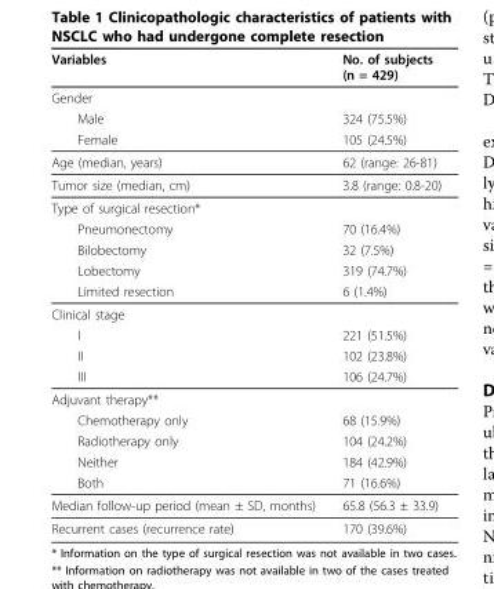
<table><thead><tr><td>Variables</td><td>No. of subjects (n = 429)</td></tr></thead><tbody><tr><td colspan="2">Gender</td></tr><tr><td>Male</td><td>324 (75.5%)</td></tr><tr><td>Female</td><td>105 (24.5%)</td></tr><tr><td>Age (median, years)</td><td>62 (range: 26-81)</td></tr><tr><td>Tumor size (median, cm)</td><td>3.8 (range: 0.8-20)</td></tr><tr><td colspan="2">Type of surgical resection*</td></tr><tr><td>Pneumonectomy</td><td>70 (16.4%)</td></tr><tr><td>Bilobectomy</td><td>32 (7.5%)</td></tr><tr><td>Lobectomy</td><td>319 (74.7%)</td></tr><tr><td>Limited resection</td><td>6 (1.4%)</td></tr><tr><td colspan="2">Clinical stage</td></tr><tr><td>I</td><td>221 (51.5%)</td></tr><tr><td>II</td><td>102 (23.8%)</td></tr><tr><td>III</td><td>106 (24.7%)</td></tr><tr><td colspan="2">Adjuvant therapy**</td></tr><tr><td>Chemotherapy only</td><td>68 (15.9%)</td></tr><tr><td>Radiotherapy only</td><td>104 (24.2%)</td></tr><tr><td>Neither</td><td>184 (42.9%)</td></tr><tr><td>Both</td><td>71 (16.6%)</td></tr><tr><td>Median follow-up period (mean ± SD, months)</td><td>65.8 (56.3 ± 33.9)</td></tr><tr><td>Recurrent cases (recurrence rate)</td><td>170 (39.6%)</td></tr></tbody></table>